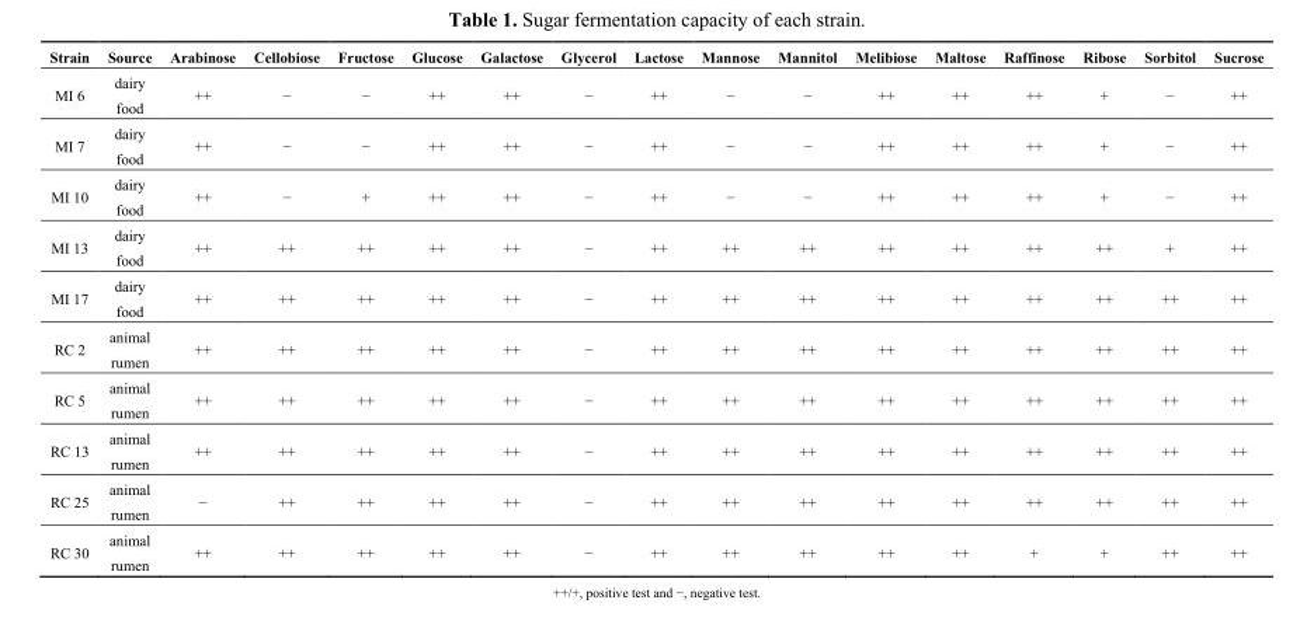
<table><thead><tr><td>Strain</td><td>Source</td><td>Arabinose</td><td>Cellobiose</td><td>Fructose</td><td>Glucose</td><td>Galactose</td><td>Glycerol</td><td>Lactose</td><td>Mannose</td><td>Mannitol</td><td>Melibiose</td><td>Maltose</td><td>Raffinose</td><td>Ribose</td><td>Sorbitol</td><td>Sucrose</td></tr></thead><tbody><tr><td>MI 6</td><td>dairy food</td><td>++</td><td>−</td><td>−</td><td>++</td><td>++</td><td>−</td><td>++</td><td>−</td><td>−</td><td>++</td><td>++</td><td>++</td><td>+</td><td>−</td><td>++</td></tr><tr><td>MI 7</td><td>dairy food</td><td>++</td><td>−</td><td>−</td><td>++</td><td>++</td><td>−</td><td>++</td><td>−</td><td>−</td><td>++</td><td>++</td><td>++</td><td>+</td><td>−</td><td>++</td></tr><tr><td>MI 10</td><td>dairy food</td><td>++</td><td>−</td><td>+</td><td>++</td><td>++</td><td>−</td><td>++</td><td>−</td><td>−</td><td>++</td><td>++</td><td>++</td><td>+</td><td>−</td><td>++</td></tr><tr><td>MI 13</td><td>dairy food</td><td>++</td><td>++</td><td>++</td><td>++</td><td>++</td><td>−</td><td>++</td><td>++</td><td>++</td><td>++</td><td>++</td><td>++</td><td>++</td><td>+</td><td>++</td></tr><tr><td>MI 17</td><td>dairy food</td><td>++</td><td>++</td><td>++</td><td>++</td><td>++</td><td>−</td><td>++</td><td>++</td><td>++</td><td>++</td><td>++</td><td>++</td><td>++</td><td>++</td><td>++</td></tr><tr><td>RC 2</td><td>animal rumen</td><td>++</td><td>++</td><td>++</td><td>++</td><td>++</td><td>−</td><td>++</td><td>++</td><td>++</td><td>++</td><td>++</td><td>++</td><td>++</td><td>++</td><td>++</td></tr><tr><td>RC 5</td><td>animal rumen</td><td>++</td><td>++</td><td>++</td><td>++</td><td>++</td><td>−</td><td>++</td><td>++</td><td>++</td><td>++</td><td>++</td><td>++</td><td>++</td><td>++</td><td>++</td></tr><tr><td>RC 13</td><td>animal rumen</td><td>++</td><td>++</td><td>++</td><td>++</td><td>++</td><td>−</td><td>++</td><td>++</td><td>++</td><td>++</td><td>++</td><td>++</td><td>++</td><td>++</td><td>++</td></tr><tr><td>RC 25</td><td>animal rumen</td><td>−</td><td>++</td><td>++</td><td>++</td><td>++</td><td>−</td><td>++</td><td>++</td><td>++</td><td>++</td><td>++</td><td>++</td><td>++</td><td>++</td><td>++</td></tr><tr><td>RC 30</td><td>animal rumen</td><td>++</td><td>++</td><td>++</td><td>++</td><td>++</td><td>−</td><td>++</td><td>++</td><td>++</td><td>++</td><td>++</td><td>+</td><td>+</td><td>++</td><td>++</td></tr></tbody></table>